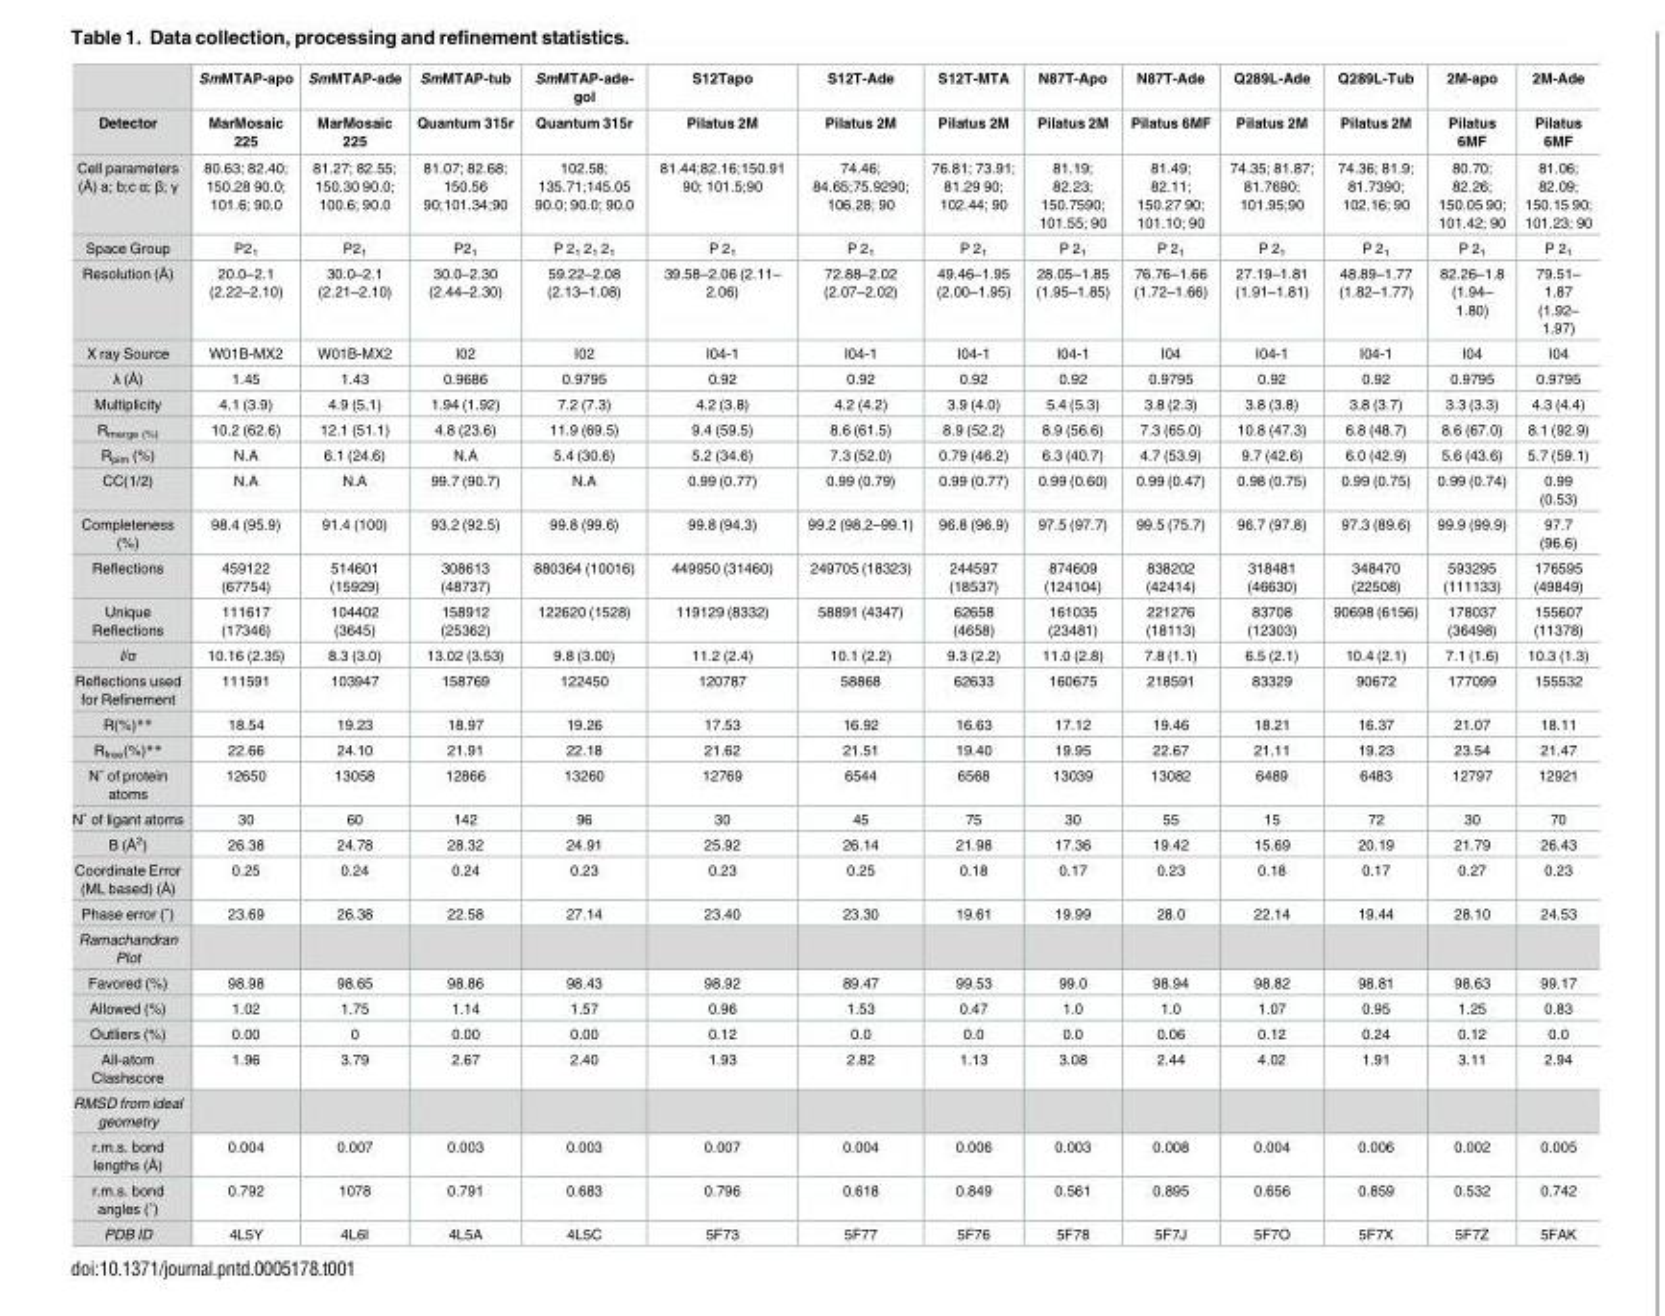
<table><thead><tr><td rowspan="2">Detector</td><td rowspan="2">SmMTAP-apo MarMosaic 225</td><td rowspan="2">SmMTAP-ade MarMosaic 225</td><td rowspan="2">SmMTAP-tub Quantum 315r</td><td rowspan="2">SmMTAP-ade- gol Quantum 315r</td><td rowspan="2">S12Tapo Pilatus 2M</td><td rowspan="2">S12T-Ade Pilatus 2M</td><td rowspan="2">S12T-MTA Pilatus 2M</td><td rowspan="2">N87T-Apo Pilatus 2M</td><td rowspan="2">N87T-Ade Pilatus 6MF</td><td rowspan="2">Q289L-Ade Pilatus 2M</td><td rowspan="2">Q289L-Tub Pilatus 2M</td><td rowspan="2">2M-apo Pilatus 6MF</td><td rowspan="2">2M-Ade Pilatus 6MF</td></tr><tr></tr></thead><tbody><tr><td>Cell parameters (Å) a; b;c α; β; γ</td><td>80.63; 82.40; 150.28 90.0; 101.6; 90.0</td><td>81.27; 82.55; 150.30 90.0; 100.6; 90.0</td><td>81.07; 82.68; 150.56 90;101.34;90</td><td>102.58; 135.71;145.05 90.0; 90.0; 90.0</td><td>81.44;82.16;150.91 90; 101.5;90</td><td>74.46; 84.65;75.9290; 106.28; 90</td><td>76.81; 73.91; 81.29 90; 102.44; 90</td><td>81.19; 82.23; 150.7590; 101.55; 90</td><td>81.49; 82.11; 150.27 90; 101.10; 90</td><td>74.35; 81.87; 81.7690; 101.95;90</td><td>74.36; 81.9; 81.7390; 102.16; 90</td><td>80.70; 82.26; 150.05 90; 101.42; 90</td><td>81.06; 82.09; 150.15 90; 101.23; 90</td></tr><tr><td>Space Group</td><td>P2<sub>1</sub></td><td>P2<sub>1</sub></td><td>P2<sub>1</sub></td><td>P 2<sub>1</sub> 2<sub>1</sub> 2<sub>1</sub></td><td>P 2<sub>1</sub></td><td>P 2<sub>1</sub></td><td>P 2<sub>1</sub></td><td>P 2<sub>1</sub></td><td>P 2<sub>1</sub></td><td>P 2<sub>1</sub></td><td>P 2<sub>1</sub></td><td>P 2<sub>1</sub></td><td>P 2<sub>1</sub></td></tr><tr><td>Resolution (Å)</td><td>20.0–2.1 (2.22–2.10)</td><td>30.0–2.1 (2.21–2.10)</td><td>30.0–2.30 (2.44–2.30)</td><td>59.22–2.08 (2.13–1.08)</td><td>39.58–2.06 (2.11– 2.06)</td><td>72.88–2.02 (2.07–2.02)</td><td>49.46–1.95 (2.00–1.95)</td><td>28.05–1.85 (1.95–1.85)</td><td>76.76–1.66 (1.72–1.66)</td><td>27.19–1.81 (1.91–1.81)</td><td>48.89–1.77 (1.82–1.77)</td><td>82.26–1.8 (1.94– 1.80)</td><td>79.51– 1.87 (1.92– 1.97)</td></tr><tr><td>X ray Source</td><td>W01B-MX2</td><td>W01B-MX2</td><td>I02</td><td>I02</td><td>I04-1</td><td>I04-1</td><td>I04-1</td><td>I04-1</td><td>I04</td><td>I04-1</td><td>I04-1</td><td>I04</td><td>I04</td></tr><tr><td>λ (Å)</td><td>1.45</td><td>1.43</td><td>0.9686</td><td>0.9795</td><td>0.92</td><td>0.92</td><td>0.92</td><td>0.92</td><td>0.9795</td><td>0.92</td><td>0.92</td><td>0.9795</td><td>0.9795</td></tr><tr><td>Multiplicity</td><td>4.1 (3.9)</td><td>4.9 (5,1)</td><td>1.94 (1.92)</td><td>7.2 (7.3)</td><td>4.2 (3.8)</td><td>4.2 (4.2)</td><td>3.9 (4.0)</td><td>5.4 (5.3)</td><td>3.8 (2.3)</td><td>3.8 (3.8)</td><td>3.8 (3.7)</td><td>3.3 (3.3)</td><td>4.3 (4.4)</td></tr><tr><td>R<sub>merge (%)</sub></td><td>10.2 (62.6)</td><td>12.1 (51.1)</td><td>4.8 (23.6)</td><td>11.9 (69.5)</td><td>9.4 (59.5)</td><td>8.6 (61.5)</td><td>8.9 (52.2)</td><td>8.9 (56.6)</td><td>7.3 (65.0)</td><td>10.8 (47.3)</td><td>6.8 (48.7)</td><td>8.6 (67.0)</td><td>8.1 (92.9)</td></tr><tr><td>R<sub>pim</sub> (%)</td><td>N.A</td><td>6.1 (24.6)</td><td>N.A</td><td>5.4 (30.6)</td><td>5.2 (34.6)</td><td>7.3 (52.0)</td><td>0.79 (46.2)</td><td>6.3 (40.7)</td><td>4.7 (53.9)</td><td>9.7 (42.6)</td><td>6.0 (42.9)</td><td>5.6 (43.6)</td><td>5.7 (59.1)</td></tr><tr><td>CC(1/2)</td><td>N.A</td><td>N.A</td><td>99.7 (90.7)</td><td>N.A</td><td>0.99 (0.77)</td><td>0.99 (0.79)</td><td>0.99 (0.77)</td><td>0.99 (0.60)</td><td>0.99 (0.47)</td><td>0.98 (0.75)</td><td>0.99 (0.75)</td><td>0.99 (0.74)</td><td>0.99 (0.53)</td></tr><tr><td>Completeness (%)</td><td>98.4 (95.9)</td><td>91.4 (100)</td><td>93.2 (92.5)</td><td>99.8 (99.6)</td><td>99.8 (94.3)</td><td>99.2 (98.2–99.1)</td><td>96.8 (96.9)</td><td>97.5 (97.7)</td><td>99.5 (75.7)</td><td>96.7 (97.8)</td><td>97.3 (89.6)</td><td>99.9 (99.9)</td><td>97.7 (96.6)</td></tr><tr><td>Reflections</td><td>459122 (67754)</td><td>514601 (15929)</td><td>308613 (48737)</td><td>880364 (10016)</td><td>449950 (31460)</td><td>249705 (18323)</td><td>244597 (18537)</td><td>874609 (124104)</td><td>838202 (42414)</td><td>318481 (46630)</td><td>348470 (22508)</td><td>593295 (111133)</td><td>176595 (49849)</td></tr><tr><td>Unique Reflections</td><td>111617 (17346)</td><td>104402 (3645)</td><td>158912 (25362)</td><td>122620 (1528)</td><td>119129 (8332)</td><td>58891 (4347)</td><td>62658 (4658)</td><td>161035 (23481)</td><td>221276 (18113)</td><td>83708 (12303)</td><td>90698 (6156)</td><td>178037 (36498)</td><td>155607 (11378)</td></tr><tr><td>I/σ</td><td>10.16 (2.35)</td><td>8.3 (3.0)</td><td>13.02 (3.53)</td><td>9.8 (3.00)</td><td>11.2 (2.4)</td><td>10.1 (2.2)</td><td>9.3 (2.2)</td><td>11.0 (2.8)</td><td>7.8 (1.1)</td><td>6.5 (2.1)</td><td>10.4 (2.1)</td><td>7.1 (1.6)</td><td>10.3 (1.3)</td></tr><tr><td>Reflections used for Refinement</td><td>111591</td><td>103947</td><td>158769</td><td>122450</td><td>120787</td><td>58868</td><td>62633</td><td>160675</td><td>218591</td><td>83329</td><td>90672</td><td>177099</td><td>155532</td></tr><tr><td>R(%)**</td><td>18.54</td><td>19.23</td><td>18.97</td><td>19.26</td><td>17.53</td><td>16.92</td><td>16.63</td><td>17.12</td><td>19.46</td><td>18.21</td><td>16.37</td><td>21.07</td><td>18.11</td></tr><tr><td>R<sub>free</sub>(%)**</td><td>22.66</td><td>24.10</td><td>21.91</td><td>22.18</td><td>21.62</td><td>21.51</td><td>19.40</td><td>19.95</td><td>22.67</td><td>21.11</td><td>19.23</td><td>23.54</td><td>21.47</td></tr><tr><td>N˚ of protein atoms</td><td>12650</td><td>13058</td><td>12866</td><td>13260</td><td>12769</td><td>6544</td><td>6568</td><td>13039</td><td>13082</td><td>6489</td><td>6483</td><td>12797</td><td>12921</td></tr><tr><td>N˚ of ligant atoms</td><td>30</td><td>60</td><td>142</td><td>96</td><td>30</td><td>45</td><td>75</td><td>30</td><td>55</td><td>15</td><td>72</td><td>30</td><td>70</td></tr><tr><td>B (Å<sup>2</sup>)</td><td>26.38</td><td>24.78</td><td>28.32</td><td>24.91</td><td>25.92</td><td>26.14</td><td>21.98</td><td>17.36</td><td>19.42</td><td>15.69</td><td>20.19</td><td>21.79</td><td>26.43</td></tr><tr><td>Coordinate Error (ML based) (Å)</td><td>0.25</td><td>0.24</td><td>0.24</td><td>0.23</td><td>0.23</td><td>0.25</td><td>0.18</td><td>0.17</td><td>0.23</td><td>0.18</td><td>0.17</td><td>0.27</td><td>0.23</td></tr><tr><td>Phase error (˚)</td><td>23.69</td><td>26.38</td><td>22.58</td><td>27.14</td><td>23.40</td><td>23.30</td><td>19.61</td><td>19.99</td><td>28.0</td><td>22.14</td><td>19.44</td><td>28.10</td><td>24.53</td></tr><tr><td colspan="14">Ramachandran Plot</td></tr><tr><td>Favored (%)</td><td>98.98</td><td>98.65</td><td>98.86</td><td>98.43</td><td>98.92</td><td>89.47</td><td>99.53</td><td>99.0</td><td>98.94</td><td>98.82</td><td>98.81</td><td>98.63</td><td>99.17</td></tr><tr><td>Allowed (%)</td><td>1.02</td><td>1.75</td><td>1.14</td><td>1.57</td><td>0.96</td><td>1.53</td><td>0.47</td><td>1.0</td><td>1.0</td><td>1.07</td><td>0.95</td><td>1.25</td><td>0.83</td></tr><tr><td>Outliers (%)</td><td>0.00</td><td>0</td><td>0.00</td><td>0.00</td><td>0.12</td><td>0.0</td><td>0.0</td><td>0.0</td><td>0.06</td><td>0.12</td><td>0.24</td><td>0.12</td><td>0.0</td></tr><tr><td>All-atom Clashscore</td><td>1.96</td><td>3.79</td><td>2.67</td><td>2.40</td><td>1.93</td><td>2.82</td><td>1.13</td><td>3.08</td><td>2.44</td><td>4.02</td><td>1.91</td><td>3.11</td><td>2.94</td></tr><tr><td colspan="14">RMSD from ideal geometry</td></tr><tr><td>r.m.s. bond lengths (Å)</td><td>0.004</td><td>0.007</td><td>0.003</td><td>0.003</td><td>0.007</td><td>0.004</td><td>0.006</td><td>0.003</td><td>0.008</td><td>0.004</td><td>0.006</td><td>0.002</td><td>0.005</td></tr><tr><td>r.m.s. bond angles (˚)</td><td>0.792</td><td>1078</td><td>0.791</td><td>0.683</td><td>0.796</td><td>0.618</td><td>0.849</td><td>0.561</td><td>0.895</td><td>0.656</td><td>0.859</td><td>0.532</td><td>0.742</td></tr><tr><td>PDB ID</td><td>4L5Y</td><td>4L6I</td><td>4L5A</td><td>4L5C</td><td>5F73</td><td>5F77</td><td>5F76</td><td>5F78</td><td>5F7J</td><td>5F7O</td><td>5F7X</td><td>5F7Z</td><td>5FAK</td></tr></tbody></table>